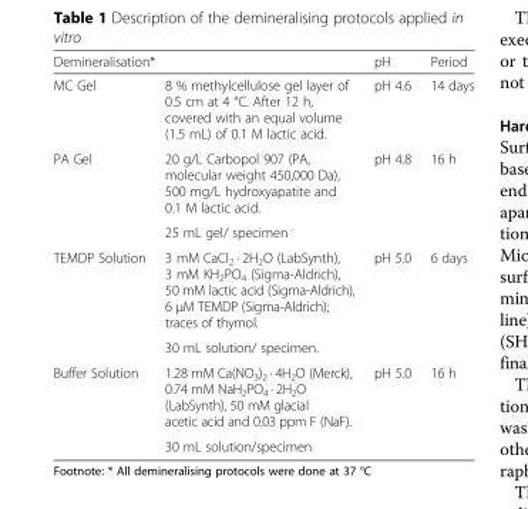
<table><thead><tr><td colspan="2">Demineralisation*</td><td rowspan="2">pH pH 4.6</td><td rowspan="2">Period 14 days</td></tr><tr><td>MC Gel</td><td>8 % methylcellulose gel layer of 0.5 cm at 4 °C. After 12 h, covered with an equal volume (1.5 mL) of 0.1 M lactic acid.</td></tr></thead><tbody><tr><td rowspan="2">PA Gel</td><td>20 g/L Carbopol 907 (PA, molecular weight 450,000 Da), 500 mg/L hydroxyapatite and 0.1 M lactic acid.</td><td rowspan="2">pH 4.8</td><td rowspan="2">16 h</td></tr><tr><td>25 mL gel/ specimen</td></tr><tr><td rowspan="2">TEMDP Solution</td><td>3 mM CaCl<sub>2</sub> · 2H<sub>2</sub>O (LabSynth), 3 mM KH<sub>2</sub>PO<sub>4</sub> (Sigma-Aldrich), 50 mM lactic acid (Sigma-Aldrich), 6 μM TEMDP (Sigma-Aldrich); traces of thymol.</td><td rowspan="2">pH 5.0</td><td rowspan="2">6 days</td></tr><tr><td>30 mL solution/ specimen.</td></tr><tr><td rowspan="2">Buffer Solution</td><td>1.28 mM Ca(NO<sub>3</sub>)<sub>2</sub> · 4H<sub>2</sub>O (Merck), 0.74 mM NaH<sub>2</sub>PO<sub>4</sub> · 2H<sub>2</sub>O (LabSynth), 50 mM glacial acetic acid and 0.03 ppm F (NaF).</td><td rowspan="2">pH 5.0</td><td rowspan="2">16 h</td></tr><tr><td>30 mL solution/specimen</td></tr></tbody></table>